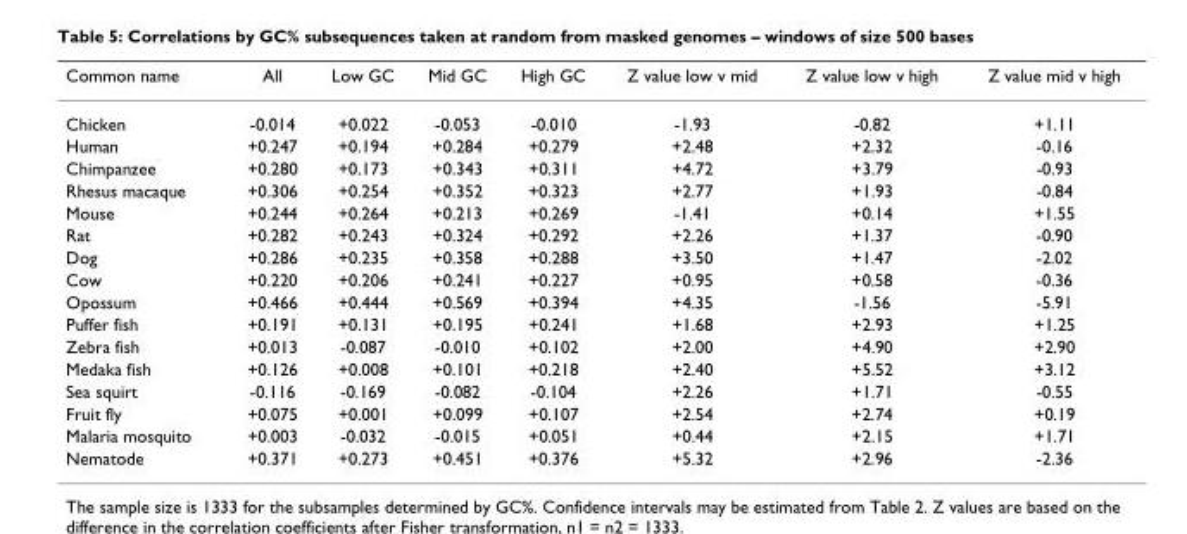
<table><thead><tr><td>Common name</td><td>All</td><td>Low GC</td><td>Mid GC</td><td>High GC</td><td>Z value low v mid</td><td>Z value low v high</td><td>Z value mid v high</td></tr></thead><tbody><tr><td>Chicken</td><td>-0.014</td><td>+0.022</td><td>-0.053</td><td>-0.010</td><td>-1.93</td><td>-0.82</td><td>+1.11</td></tr><tr><td>Human</td><td>+0.247</td><td>+0.194</td><td>+0.284</td><td>+0.279</td><td>+2.48</td><td>+2.32</td><td>-0.16</td></tr><tr><td>Chimpanzee</td><td>+0.280</td><td>+0.173</td><td>+0.343</td><td>+0.311</td><td>+4.72</td><td>+3.79</td><td>-0.93</td></tr><tr><td>Rhesus macaque</td><td>+0.306</td><td>+0.254</td><td>+0.352</td><td>+0.323</td><td>+2.77</td><td>+1.93</td><td>-0.84</td></tr><tr><td>Mouse</td><td>+0.244</td><td>+0.264</td><td>+0.213</td><td>+0.269</td><td>-1.41</td><td>+0.14</td><td>+1.55</td></tr><tr><td>Rat</td><td>+0.282</td><td>+0.243</td><td>+0.324</td><td>+0.292</td><td>+2.26</td><td>+1.37</td><td>-0.90</td></tr><tr><td>Dog</td><td>+0.286</td><td>+0.235</td><td>+0.358</td><td>+0.288</td><td>+3.50</td><td>+1.47</td><td>-2.02</td></tr><tr><td>Cow</td><td>+0.220</td><td>+0.206</td><td>+0.241</td><td>+0.227</td><td>+0.95</td><td>+0.58</td><td>-0.36</td></tr><tr><td>Opossum</td><td>+0.466</td><td>+0.444</td><td>+0.569</td><td>+0.394</td><td>+4.35</td><td>-1.56</td><td>-5.91</td></tr><tr><td>Puffer fish</td><td>+0.191</td><td>+0.131</td><td>+0.195</td><td>+0.241</td><td>+1.68</td><td>+2.93</td><td>+1.25</td></tr><tr><td>Zebra fish</td><td>+0.013</td><td>-0.087</td><td>-0.010</td><td>+0.102</td><td>+2.00</td><td>+4.90</td><td>+2.90</td></tr><tr><td>Medaka fish</td><td>+0.126</td><td>+0.008</td><td>+0.101</td><td>+0.218</td><td>+2.40</td><td>+5.52</td><td>+3.12</td></tr><tr><td>Sea squirt</td><td>-0.116</td><td>-0.169</td><td>-0.082</td><td>-0.104</td><td>+2.26</td><td>+1.71</td><td>-0.55</td></tr><tr><td>Fruit fly</td><td>+0.075</td><td>+0.001</td><td>+0.099</td><td>+0.107</td><td>+2.54</td><td>+2.74</td><td>+0.19</td></tr><tr><td>Malaria mosquito</td><td>+0.003</td><td>-0.032</td><td>-0.015</td><td>+0.051</td><td>+0.44</td><td>+2.15</td><td>+1.71</td></tr><tr><td>Nematode</td><td>+0.371</td><td>+0.273</td><td>+0.451</td><td>+0.376</td><td>+5.32</td><td>+2.96</td><td>-2.36</td></tr></tbody></table>